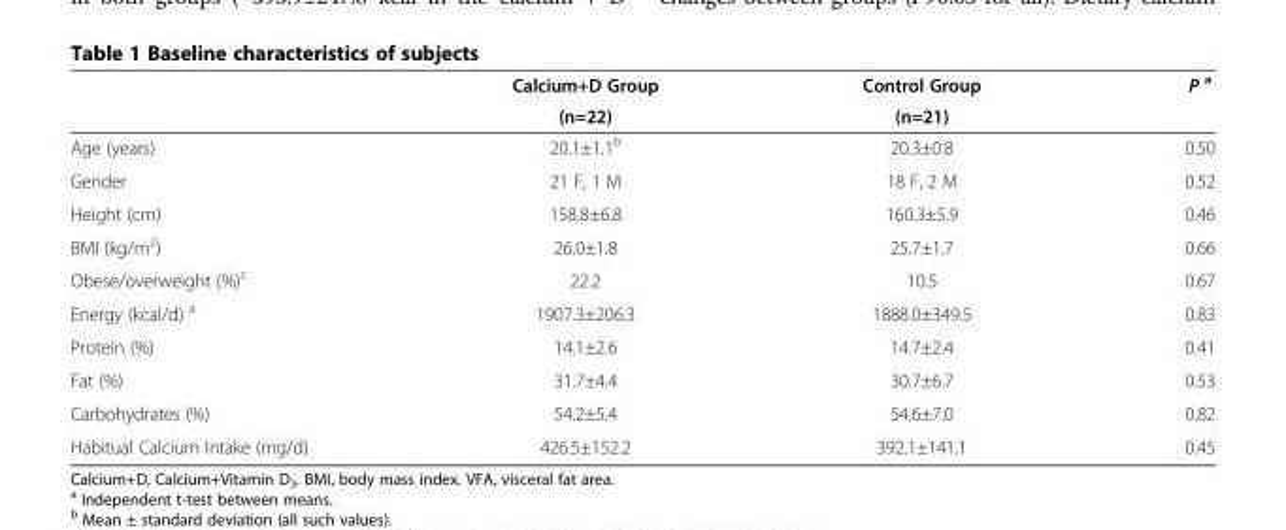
<table><thead><tr><td rowspan="2"></td><td rowspan="2">Calcium+D Group (n=22)</td><td rowspan="2">Control Group (n=21)</td><td rowspan="2">P <sup>a</sup></td></tr><tr></tr></thead><tbody><tr><td>Age (years)</td><td>20.1±1.1<sup>b</sup></td><td>20.3±0.8</td><td>0.50</td></tr><tr><td>Gender</td><td>21 F, 1 M</td><td>18 F, 2 M</td><td>0.52</td></tr><tr><td>Height (cm)</td><td>158.8±6.8</td><td>160.3±5.9</td><td>0.46</td></tr><tr><td>BMI (kg/m<sup>2</sup>)</td><td>26.0±1.8</td><td>25.7±1.7</td><td>0.66</td></tr><tr><td>Obese/overweight (%)<sup>c</sup></td><td>22.2</td><td>10.5</td><td>0.67</td></tr><tr><td>Energy (kcal/d) <sup>a</sup></td><td>1907.3±206.3</td><td>1888.0±349.5</td><td>0.83</td></tr><tr><td>Protein (%)</td><td>14.1±2.6</td><td>14.7±2.4</td><td>0.41</td></tr><tr><td>Fat (%)</td><td>31.7±4.4</td><td>30.7±6.7</td><td>0.53</td></tr><tr><td>Carbohydrates (%)</td><td>54.2±5.4</td><td>54.6±7.0</td><td>0.82</td></tr><tr><td>Habitual Calcium Intake (mg/d)</td><td>426.5±152.2</td><td>392.1±141.1</td><td>0.45</td></tr></tbody></table>